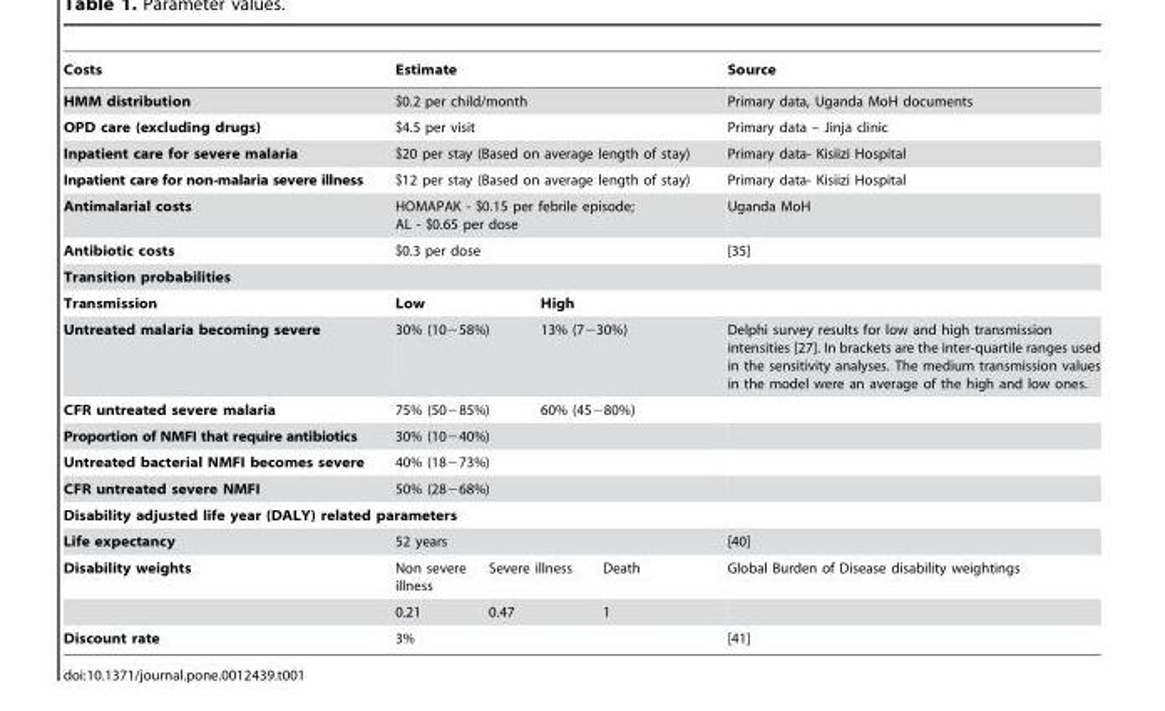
<table><thead><tr><td>Costs</td><td colspan="4">Estimate</td><td>Source</td></tr></thead><tbody><tr><td>HMM distribution</td><td colspan="4">$0.2 per child/month</td><td>Primary data, Uganda MoH documents</td></tr><tr><td>OPD care (excluding drugs)</td><td colspan="4">$4.5 per visit</td><td>Primary data – Jinja clinic</td></tr><tr><td>Inpatient care for severe malaria</td><td colspan="4">$20 per stay (Based on average length of stay)</td><td>Primary data- Kisiizi Hospital</td></tr><tr><td>Inpatient care for non-malaria severe illness</td><td colspan="4">$12 per stay (Based on average length of stay)</td><td>Primary data- Kisiizi Hospital</td></tr><tr><td>Antimalarial costs</td><td colspan="4">HOMAPAK - $0.15 per febrile episode; AL - $0.65 per dose</td><td>Uganda MoH</td></tr><tr><td>Antibiotic costs</td><td colspan="4">$0.3 per dose</td><td>[35]</td></tr><tr><td colspan="6">Transition probabilities</td></tr><tr><td>Transmission</td><td colspan="2">Low</td><td colspan="2">High</td><td></td></tr><tr><td>Untreated malaria becoming severe</td><td colspan="2">30% (10−58%)</td><td colspan="2">13% (7−30%)</td><td>Delphi survey results for low and high transmission intensities [27]. In brackets are the inter-quartile ranges used in the sensitivity analyses. The medium transmission values in the model were an average of the high and low ones.</td></tr><tr><td>CFR untreated severe malaria</td><td colspan="2">75% (50−85%)</td><td colspan="2">60% (45−80%)</td><td></td></tr><tr><td>Proportion of NMFI that require antibiotics</td><td colspan="4">30% (10−40%)</td><td></td></tr><tr><td>Untreated bacterial NMFI becomes severe</td><td colspan="4">40% (18−73%)</td><td></td></tr><tr><td>CFR untreated severe NMFI</td><td colspan="4">50% (28−68%)</td><td></td></tr><tr><td colspan="6">Disability adjusted life year (DALY) related parameters</td></tr><tr><td>Life expectancy</td><td colspan="4">52 years</td><td>[40]</td></tr><tr><td rowspan="2">Disability weights</td><td>Non severe illness</td><td colspan="2">Severe illness</td><td>Death</td><td>Global Burden of Disease disability weightings</td></tr><tr><td>0.21</td><td colspan="2">0.47</td><td>1</td><td></td></tr><tr><td>Discount rate</td><td colspan="4">3%</td><td>[41]</td></tr></tbody></table>